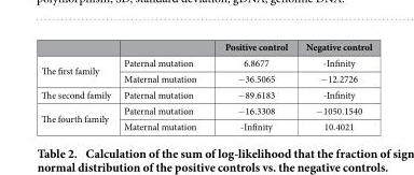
<table><thead><tr><td></td><td></td><td>Positive control</td><td>Negative control</td></tr></thead><tbody><tr><td rowspan="2">The first family</td><td>Paternal mutation</td><td>6.8677</td><td>-Infinity</td></tr><tr><td>Maternal mutation</td><td>− 36.5065</td><td>− 12.2726</td></tr><tr><td>The second family</td><td>Paternal mutation</td><td>− 89.6183</td><td>-Infinity</td></tr><tr><td rowspan="2">The fourth family</td><td>Paternal mutation</td><td>− 16.3308</td><td>− 1050.1540</td></tr><tr><td>Maternal mutation</td><td>-Infinity</td><td>10.4021</td></tr></tbody></table>